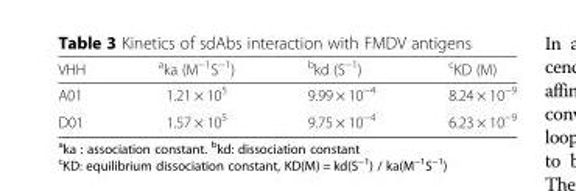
<table><thead><tr><td>VHH</td><td><sup>a</sup>ka (M<sup>−1</sup>S<sup>−1</sup>)</td><td><sup>b</sup>kd (S<sup>−1</sup>)</td><td><sup>c</sup>KD (M)</td></tr></thead><tbody><tr><td>A01</td><td>1.21 × 10<sup>5</sup></td><td>9.99 × 10<sup>−4</sup></td><td>8.24 × 10<sup>−9</sup></td></tr><tr><td>D01</td><td>1.57 × 10<sup>5</sup></td><td>9.75 × 10<sup>−4</sup></td><td>6.23 × 10<sup>−9</sup></td></tr></tbody></table>